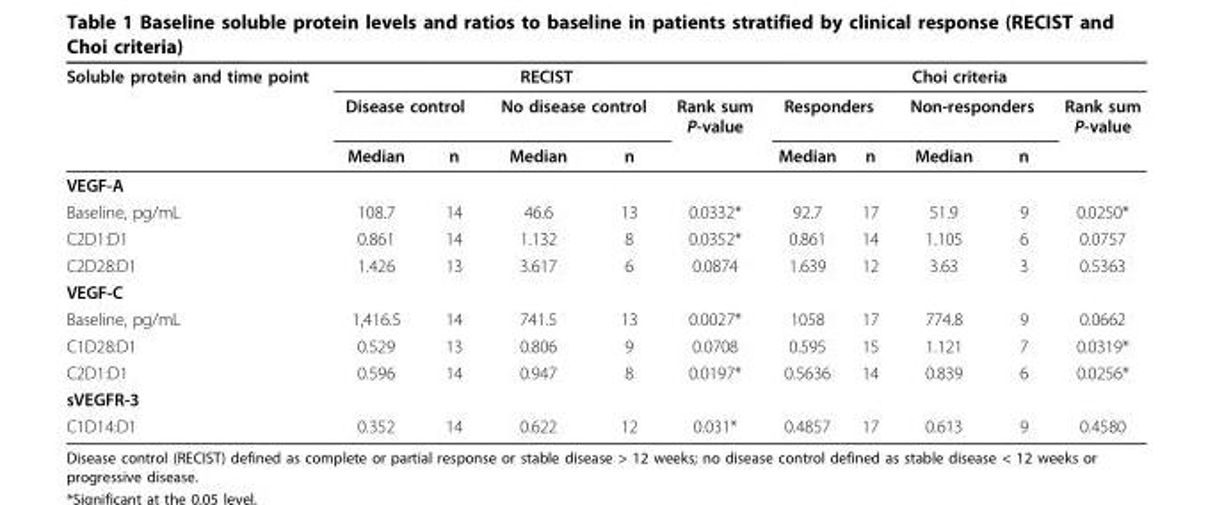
<table><thead><tr><td rowspan="3">Soluble protein and time point</td><td colspan="5">RECIST</td><td colspan="5">Choi criteria</td></tr><tr><td colspan="2">Disease control</td><td colspan="2">No disease control</td><td rowspan="2">Rank sum P-value</td><td colspan="2">Responders</td><td colspan="2">Non-responders</td><td rowspan="2">Rank sum P-value</td></tr><tr><td>Median</td><td>n</td><td>Median</td><td>n</td><td>Median</td><td>n</td><td>Median</td><td>n</td></tr></thead><tbody><tr><td colspan="11">VEGF-A</td></tr><tr><td>Baseline, pg/mL</td><td>108.7</td><td>14</td><td>46.6</td><td>13</td><td>0.0332*</td><td>92.7</td><td>17</td><td>51.9</td><td>9</td><td>0.0250*</td></tr><tr><td>C2D1:D1</td><td>0.861</td><td>14</td><td>1.132</td><td>8</td><td>0.0352*</td><td>0.861</td><td>14</td><td>1.105</td><td>6</td><td>0.0757</td></tr><tr><td>C2D28:D1</td><td>1.426</td><td>13</td><td>3.617</td><td>6</td><td>0.0874</td><td>1.639</td><td>12</td><td>3.63</td><td>3</td><td>0.5363</td></tr><tr><td colspan="11">VEGF-C</td></tr><tr><td>Baseline, pg/mL</td><td>1,416.5</td><td>14</td><td>741.5</td><td>13</td><td>0.0027*</td><td>1058</td><td>17</td><td>774.8</td><td>9</td><td>0.0662</td></tr><tr><td>C1D28:D1</td><td>0.529</td><td>13</td><td>0.806</td><td>9</td><td>0.0708</td><td>0.595</td><td>15</td><td>1.121</td><td>7</td><td>0.0319*</td></tr><tr><td>C2D1:D1</td><td>0.596</td><td>14</td><td>0.947</td><td>8</td><td>0.0197*</td><td>0.5636</td><td>14</td><td>0.839</td><td>6</td><td>0.0256*</td></tr><tr><td colspan="11">sVEGFR-3</td></tr><tr><td>C1D14:D1</td><td>0.352</td><td>14</td><td>0.622</td><td>12</td><td>0.031*</td><td>0.4857</td><td>17</td><td>0.613</td><td>9</td><td>0.4580</td></tr></tbody></table>